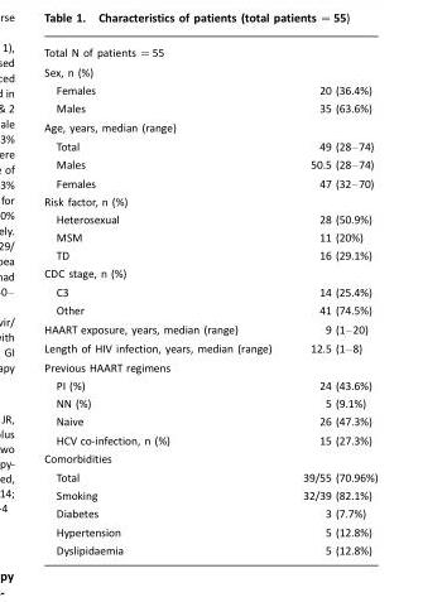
<table><tbody><tr><td colspan="2">Total N of patients =55</td></tr><tr><td colspan="2">Sex, n (%)</td></tr><tr><td>Females</td><td>20 (36.4%)</td></tr><tr><td>Males</td><td>35 (63.6%)</td></tr><tr><td colspan="2">Age, years, median (range)</td></tr><tr><td>Total</td><td>49 (28–74)</td></tr><tr><td>Males</td><td>50.5 (28–74)</td></tr><tr><td>Females</td><td>47 (32–70)</td></tr><tr><td colspan="2">Risk factor, n (%)</td></tr><tr><td>Heterosexual</td><td>28 (50.9%)</td></tr><tr><td>MSM</td><td>11 (20%)</td></tr><tr><td>TD</td><td>16 (29.1%)</td></tr><tr><td colspan="2">CDC stage, n (%)</td></tr><tr><td>C3</td><td>14 (25.4%)</td></tr><tr><td>Other</td><td>41 (74.5%)</td></tr><tr><td>HAART exposure, years, median (range)</td><td>9 (1–20)</td></tr><tr><td>Length of HIV infection, years, median (range)</td><td>12.5 (1–8)</td></tr><tr><td colspan="2">Previous HAART regimens</td></tr><tr><td>PI (%)</td><td>24 (43.6%)</td></tr><tr><td>NN (%)</td><td>5 (9.1%)</td></tr><tr><td>Naive</td><td>26 (47.3%)</td></tr><tr><td>HCV co-infection, n (%)</td><td>15 (27.3%)</td></tr><tr><td colspan="2">Comorbidities</td></tr><tr><td>Total</td><td>39/55 (70.96%)</td></tr><tr><td>Smoking</td><td>32/39 (82.1%)</td></tr><tr><td>Diabetes</td><td>3 (7.7%)</td></tr><tr><td>Hypertension</td><td>5 (12.8%)</td></tr><tr><td>Dyslipidaemia</td><td>5 (12.8%)</td></tr></tbody></table>